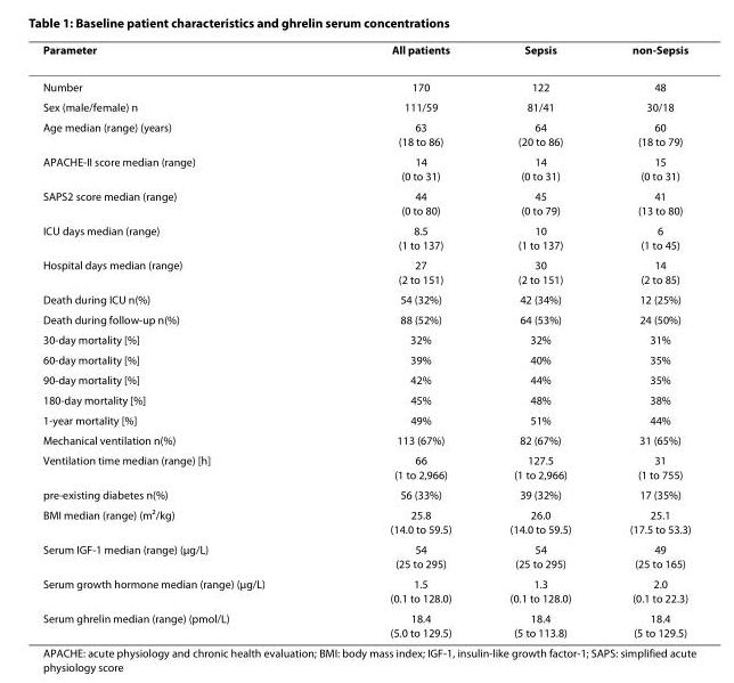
<table><thead><tr><td>Parameter</td><td>All patients</td><td>Sepsis</td><td>non-Sepsis</td></tr></thead><tbody><tr><td>Number</td><td>170</td><td>122</td><td>48</td></tr><tr><td>Sex (male/female) n</td><td>111/59</td><td>81/41</td><td>30/18</td></tr><tr><td>Age median (range) (years)</td><td>63 (18 to 86)</td><td>64 (20 to 86)</td><td>60 (18 to 79)</td></tr><tr><td>APACHE-II score median (range)</td><td>14 (0 to 31)</td><td>14 (0 to 31)</td><td>15 (0 to 31)</td></tr><tr><td>SAPS2 score median (range)</td><td>44 (0 to 80)</td><td>45 (0 to 79)</td><td>41 (13 to 80)</td></tr><tr><td>ICU days median (range)</td><td>8.5 (1 to 137)</td><td>10 (1 to 137)</td><td>6 (1 to 45)</td></tr><tr><td>Hospital days median (range)</td><td>27 (2 to 151)</td><td>30 (2 to 151)</td><td>14 (2 to 85)</td></tr><tr><td>Death during ICU n(%)</td><td>54 (32%)</td><td>42 (34%)</td><td>12 (25%)</td></tr><tr><td>Death during follow-up n(%)</td><td>88 (52%)</td><td>64 (53%)</td><td>24 (50%)</td></tr><tr><td>30-day mortality [%]</td><td>32%</td><td>32%</td><td>31%</td></tr><tr><td>60-day mortality [%]</td><td>39%</td><td>40%</td><td>35%</td></tr><tr><td>90-day mortality [%]</td><td>42%</td><td>44%</td><td>35%</td></tr><tr><td>180-day mortality [%]</td><td>45%</td><td>48%</td><td>38%</td></tr><tr><td>1-year mortality [%]</td><td>49%</td><td>51%</td><td>44%</td></tr><tr><td>Mechanical ventilation n(%)</td><td>113 (67%)</td><td>82 (67%)</td><td>31 (65%)</td></tr><tr><td>Ventilation time median (range) [h]</td><td>66 (1 to 2,966)</td><td>127.5 (1 to 2,966)</td><td>31 (1 to 755)</td></tr><tr><td>pre-existing diabetes n(%)</td><td>56 (33%)</td><td>39 (32%)</td><td>17 (35%)</td></tr><tr><td>BMI median (range) (m<sup>2</sup>/kg)</td><td>25.8 (14.0 to 59.5)</td><td>26.0 (14.0 to 59.5)</td><td>25.1 (17.5 to 53.3)</td></tr><tr><td>Serum IGF-1 median (range) (μg/L)</td><td>54 (25 to 295)</td><td>54 (25 to 295)</td><td>49 (25 to 165)</td></tr><tr><td>Serum growth hormone median (range) (μg/L)</td><td>1.5 (0.1 to 128.0)</td><td>1.3 (0.1 to 128.0)</td><td>2.0 (0.1 to 22.3)</td></tr><tr><td>Serum ghrelin median (range) (pmol/L)</td><td>18.4 (5.0 to 129.5)</td><td>18.4 (5 to 113.8)</td><td>18.4 (5 to 129.5)</td></tr></tbody></table>